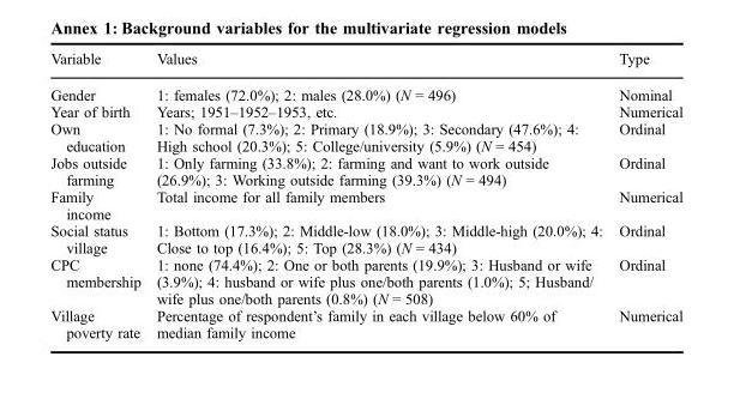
<table><thead><tr><td>Variable</td><td>Values</td><td>Type</td></tr></thead><tbody><tr><td>Gender</td><td>1: females (72.0%); 2: males (28.0%) (N = 496)</td><td>Nominal</td></tr><tr><td>Year of birth</td><td>Years; 1951–1952–1953, etc.</td><td>Numerical</td></tr><tr><td>Own education</td><td>1: No formal (7.3%); 2: Primary (18.9%); 3: Secondary (47.6%); 4: High school (20.3%); 5: College/university (5.9%) (N = 454)</td><td>Ordinal</td></tr><tr><td>Jobs outside farming</td><td>1: Only farming (33.8%); 2: farming and want to work outside (26.9%); 3: Working outside farming (39.3%) (N = 494)</td><td>Ordinal</td></tr><tr><td>Family income</td><td>Total income for all family members</td><td>Numerical</td></tr><tr><td>Social status village</td><td>1: Bottom (17.3%); 2: Middle-low (18.0%); 3: Middle-high (20.0%); 4: Close to top (16.4%); 5: Top (28.3%) (N = 434)</td><td>Ordinal</td></tr><tr><td>CPC membership</td><td>1: none (74.4%); 2: One or both parents (19.9%); 3: Husband or wife (3.9%); 4: husband or wife plus one/both parents (1.0%); 5; Husband/ wife plus one/both parents (0.8%) (N = 508)</td><td>Ordinal</td></tr><tr><td>Village poverty rate</td><td>Percentage of respondent’s family in each village below 60% of median family income</td><td>Numerical</td></tr></tbody></table>